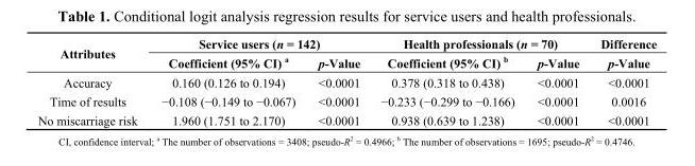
<table><thead><tr><td rowspan="2">Attributes</td><td colspan="2">Service users (n = 142)</td><td colspan="2">Health professionals (n = 70)</td><td rowspan="2">Difference p-Value</td></tr><tr><td>Coefficient (95% CI) <sup>a</sup></td><td>p-Value</td><td>Coefficient (95% CI) <sup>b</sup></td><td>p-Value</td></tr></thead><tbody><tr><td>Accuracy</td><td>0.160 (0.126 to 0.194)</td><td>&lt;0.0001</td><td>0.378 (0.318 to 0.438)</td><td>&lt;0.0001</td><td>&lt;0.0001</td></tr><tr><td>Time of results</td><td>−0.108 (−0.149 to −0.067)</td><td>&lt;0.0001</td><td>−0.233 (−0.299 to −0.166)</td><td>&lt;0.0001</td><td>0.0016</td></tr><tr><td>No miscarriage risk</td><td>1.960 (1.751 to 2.170)</td><td>&lt;0.0001</td><td>0.938 (0.639 to 1.238)</td><td>&lt;0.0001</td><td>&lt;0.0001</td></tr></tbody></table>